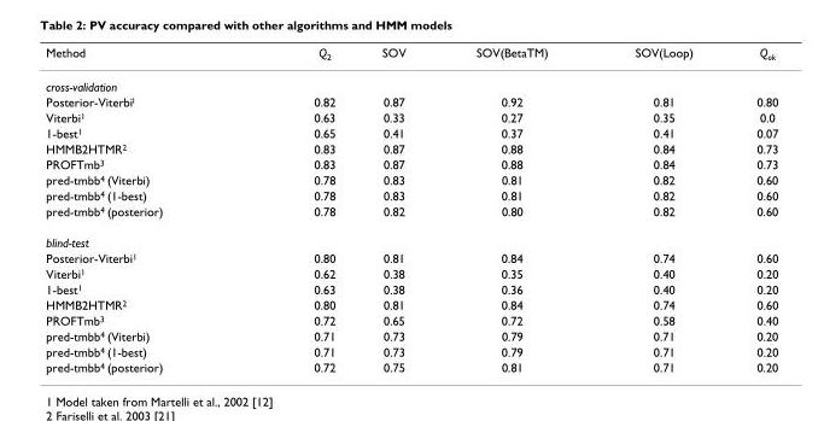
<table><thead><tr><td>Method</td><td>Q2</td><td>SOV</td><td>SOV(BetaTM)</td><td>SOV(Loop)</td><td>Qok</td></tr></thead><tbody><tr><td colspan="6">cross-validation</td></tr><tr><td>Posterior-Viterbil</td><td>0.82</td><td>0.87</td><td>0.92</td><td>0.81</td><td>0.80</td></tr><tr><td>Viterbi1</td><td>0.63</td><td>0.33</td><td>0.27</td><td>0.35</td><td>0.0</td></tr><tr><td>1-best1</td><td>0.65</td><td>0.41</td><td>0.37</td><td>0.41</td><td>0.07</td></tr><tr><td>HMMB2HTMR2</td><td>0.83</td><td>0.87</td><td>0.88</td><td>0.84</td><td>0.73</td></tr><tr><td>PROFTmb3</td><td>0.83</td><td>0.87</td><td>0.88</td><td>0.84</td><td>0.73</td></tr><tr><td>pred-tmbb4 (Viterbi)</td><td>0.78</td><td>0.83</td><td>0.81</td><td>0.82</td><td>0.60</td></tr><tr><td>pred-tmbb4 (1-best)</td><td>0.78</td><td>0.83</td><td>0.81</td><td>0.82</td><td>0.60</td></tr><tr><td>pred-tmbb4 (posterior)</td><td>0.78</td><td>0.82</td><td>0.80</td><td>0.82</td><td>0.60</td></tr><tr><td colspan="6">blind-test</td></tr><tr><td>Posterior-Viterbi1</td><td>0.80</td><td>0.81</td><td>0.84</td><td>0.74</td><td>0.60</td></tr><tr><td>Viterbi1</td><td>0.62</td><td>0.38</td><td>0.35</td><td>0.40</td><td>0.20</td></tr><tr><td>1-best1</td><td>0.63</td><td>0.38</td><td>0.36</td><td>0.40</td><td>0.20</td></tr><tr><td>HMMB2HTMR2</td><td>0.80</td><td>0.81</td><td>0.84</td><td>0.74</td><td>0.60</td></tr><tr><td>PROFTmb3</td><td>0.72</td><td>0.65</td><td>0.72</td><td>0.58</td><td>0.40</td></tr><tr><td>pred-tmbb4 (Viterbi)</td><td>0.71</td><td>0.73</td><td>0.79</td><td>0.71</td><td>0.20</td></tr><tr><td>pred-tmbb4 (1-best)</td><td>0.71</td><td>0.73</td><td>0.79</td><td>0.71</td><td>0.20</td></tr><tr><td>pred-tmbb4 (posterior)</td><td>0.72</td><td>0.75</td><td>0.81</td><td>0.71</td><td>0.20</td></tr></tbody></table>